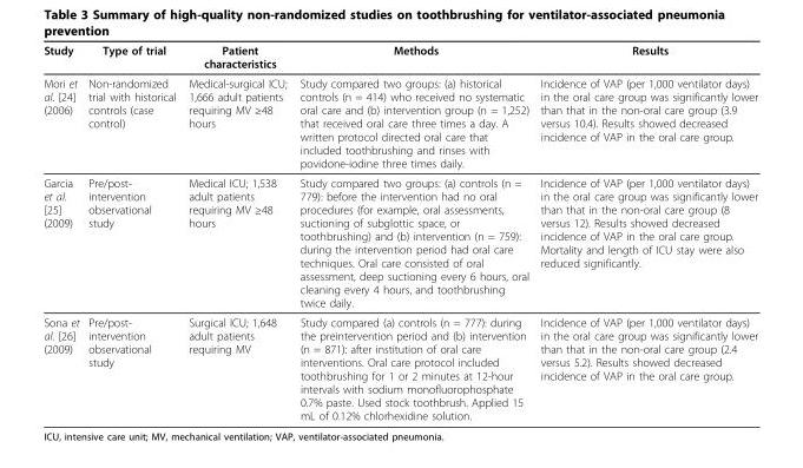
<table><thead><tr><td>Study</td><td>Type of trial</td><td>Patient characteristics</td><td>Methods</td><td>Results</td></tr></thead><tbody><tr><td>Mori et al. [24] (2006)</td><td>Non-randomized trial with historical controls (case control)</td><td>Medical-surgical ICU; 1,666 adult patients requiring MV ≥48 hours</td><td>Study compared two groups: (a) historical controls (n = 414) who received no systematic oral care and (b) intervention group (n = 1,252) that received oral care three times a day. A written protocol directed oral care that included toothbrushing and rinses with povidone-iodine three times daily.</td><td>Incidence of VAP (per 1,000 ventilator days) in the oral care group was significantly lower than that in the non-oral care group (3.9 versus 10.4). Results showed decreased incidence of VAP in the oral care group.</td></tr><tr><td>Garcia et al. [25] (2009)</td><td>Pre/post- intervention observational study</td><td>Medical ICU; 1,538 adult patients requiring MV ≥48 hours</td><td>Study compared two groups: (a) controls (n = 779): before the intervention had no oral procedures (for example, oral assessments, suctioning of subglottic space, or toothbrushing) and (b) intervention (n = 759): during the intervention period had oral care techniques. Oral care consisted of oral assessment, deep suctioning every 6 hours, oral cleaning every 4 hours, and toothbrushing twice daily.</td><td>Incidence of VAP (per 1,000 ventilator days) in the oral care group was significantly lower than that in the non-oral care group (8 versus 12). Results showed decreased incidence of VAP in the oral care group. Mortality and length of ICU stay were also reduced significantly.</td></tr><tr><td>Sona et al. [26] (2009)</td><td>Pre/post- intervention observational study</td><td>Surgical ICU; 1,648 adult patients requiring MV</td><td>Study compared (a) controls (n = 777): during the preintervention period and (b) intervention (n = 871): after institution of oral care interventions. Oral care protocol included toothbrushing for 1 or 2 minutes at 12-hour intervals with sodium monofluorophosphate 0.7% paste. Used stock toothbrush. Applied 15 mL of 0.12% chlorhexidine solution.</td><td>Incidence of VAP (per 1,000 ventilator days) in the oral care group was significantly lower than that in the non-oral care group (2.4 versus 5.2). Results showed decreased incidence of VAP in the oral care group.</td></tr></tbody></table>